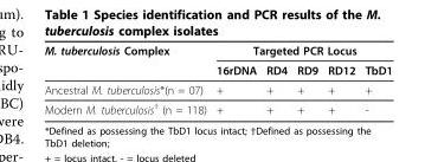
<table><thead><tr><td rowspan="2">M. tuberculosis Complex</td><td colspan="5">Targeted PCR Locus</td></tr><tr><td>16rDNA</td><td>RD4</td><td>RD9</td><td>RD12</td><td>TbD1</td></tr></thead><tbody><tr><td>Ancestral M. tuberculosis*(n = 07)</td><td>+</td><td>+</td><td>+</td><td>+</td><td>+</td></tr><tr><td>Modern M. tuberculosis<sup>†</sup> (n = 118)</td><td>+</td><td>+</td><td>+</td><td>+</td><td>-</td></tr></tbody></table>